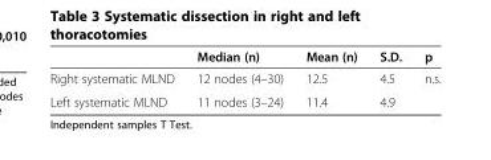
<table><thead><tr><td></td><td>Median (n)</td><td>Mean (n)</td><td>S.D.</td><td>p</td></tr></thead><tbody><tr><td>Right systematic MLND</td><td>12 nodes (4–30)</td><td>12.5</td><td>4.5</td><td>n.s.</td></tr><tr><td>Left systematic MLND</td><td>11 nodes (3–24)</td><td>11.4</td><td>4.9</td><td></td></tr></tbody></table>